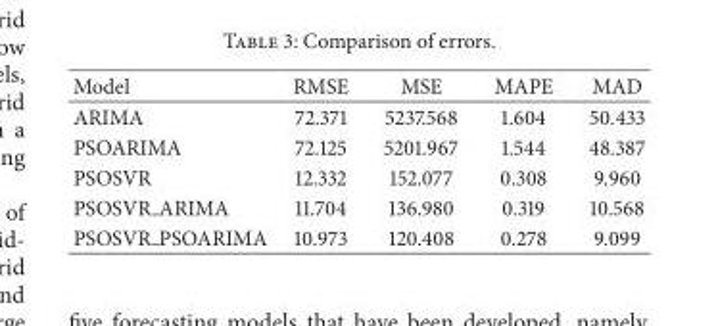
<table><thead><tr><td>Model</td><td>RMSE</td><td>MSE</td><td>MAPE</td><td>MAD</td></tr></thead><tbody><tr><td>ARIMA</td><td>72.371</td><td>5237.568</td><td>1.604</td><td>50.433</td></tr><tr><td>PSOARIMA</td><td>72.125</td><td>5201.967</td><td>1.544</td><td>48.387</td></tr><tr><td>PSOSVR</td><td>12.332</td><td>152.077</td><td>0.308</td><td>9.960</td></tr><tr><td>PSOSVR ARIMA</td><td>11.704</td><td>136.980</td><td>0.319</td><td>10.568</td></tr><tr><td>PSOSVR PSOARIMA</td><td>10.973</td><td>120.408</td><td>0.278</td><td>9.099</td></tr></tbody></table>